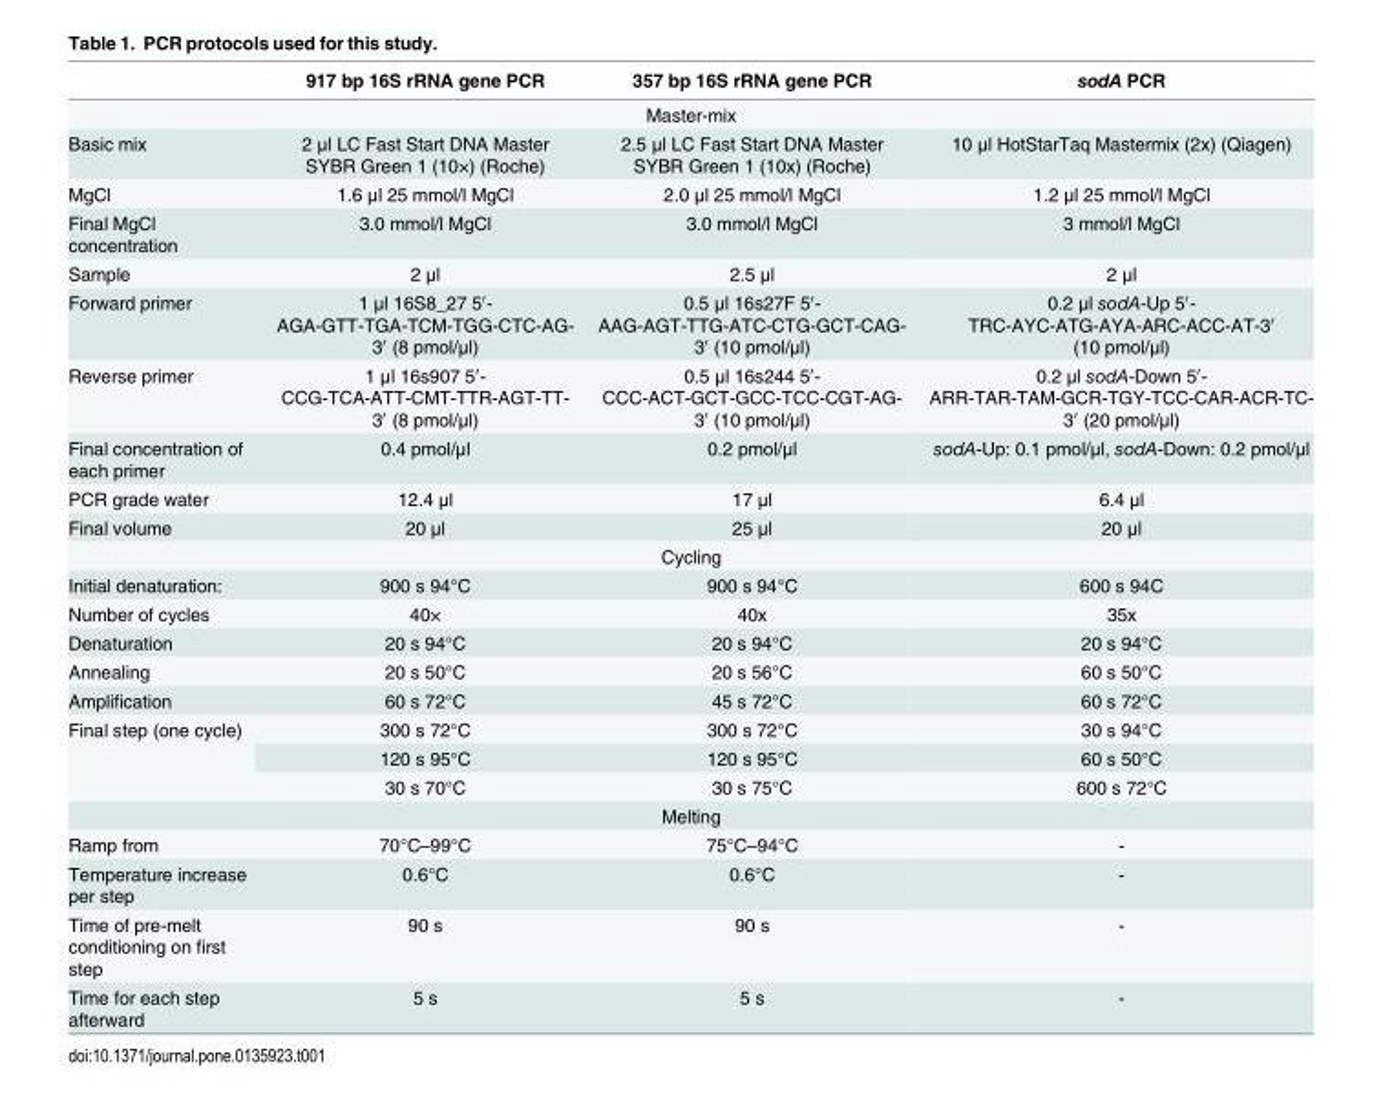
<table><thead><tr><td></td><td>917 bp 16S rRNA gene PCR</td><td>357 bp 16S rRNA gene PCR</td><td>sodA PCR</td></tr></thead><tbody><tr><td colspan="4">Master-mix</td></tr><tr><td>Basic mix</td><td>2 μl LC Fast Start DNA Master SYBR Green 1 (10×) (Roche)</td><td>2.5 μl LC Fast Start DNA Master SYBR Green 1 (10x) (Roche)</td><td>10 μl HotStarTaq Mastermix (2x) (Qiagen)</td></tr><tr><td>MgCl</td><td>1.6 μl 25 mmol/l MgCl</td><td>2.0 μl 25 mmol/l MgCl</td><td>1.2 μl 25 mmol/l MgCl</td></tr><tr><td>Final MgCl concentration</td><td>3.0 mmol/l MgCl</td><td>3.0 mmol/l MgCl</td><td>3 mmol/l MgCl</td></tr><tr><td>Sample</td><td>2 μl</td><td>2.5 μl</td><td>2 μl</td></tr><tr><td>Forward primer</td><td>1 μl 16S8_27 5′- AGA-GTT-TGA-TCM-TGG-CTC-AG- 3′ (8 pmol/μl)</td><td>0.5 μl 16s27F 5′- AAG-AGT-TTG-ATC-CTG-GCT-CAG- 3′ (10 pmol/μl)</td><td>0.2 μl sodA-Up 5′- TRC-AYC-ATG-AYA-ARC-ACC-AT-3′ (10 pmol/μl)</td></tr><tr><td>Reverse primer</td><td>1 μl 16s907 5′- CCG-TCA-ATT-CMT-TTR-AGT-TT- 3′ (8 pmol/μl)</td><td>0.5 μl 16s244 5′- CCC-ACT-GCT-GCC-TCC-CGT-AG- 3′ (10 pmol/μl)</td><td>0.2 μl sodA-Down 5′- ARR-TAR-TAM-GCR-TGY-TCC-CAR-ACR-TC- 3′ (20 pmol/μl)</td></tr><tr><td>Final concentration of each primer</td><td>0.4 pmol/μl</td><td>0.2 pmol/μl</td><td>sodA-Up: 0.1 pmol/μl, sodA-Down: 0.2 pmol/μl</td></tr><tr><td>PCR grade water</td><td>12.4 μl</td><td>17 μl</td><td>6.4 μl</td></tr><tr><td>Final volume</td><td>20 μl</td><td>25 μl</td><td>20 μl</td></tr><tr><td colspan="4">Cycling</td></tr><tr><td>Initial denaturation:</td><td>900 s 94°C</td><td>900 s 94°C</td><td>600 s 94C</td></tr><tr><td>Number of cycles</td><td>40×</td><td>40x</td><td>35x</td></tr><tr><td>Denaturation</td><td>20 s 94°C</td><td>20 s 94°C</td><td>20 s 94°C</td></tr><tr><td>Annealing</td><td>20 s 50°C</td><td>20 s 56°C</td><td>60 s 50°C</td></tr><tr><td>Amplification</td><td>60 s 72°C</td><td>45 s 72°C</td><td>60 s 72°C</td></tr><tr><td rowspan="3">Final step (one cycle)</td><td>300 s 72°C</td><td>300 s 72°C</td><td>30 s 94°C</td></tr><tr><td>120 s 95°C</td><td>120 s 95°C</td><td>60 s 50°C</td></tr><tr><td>30 s 70°C</td><td>30 s 75°C</td><td>600 s 72°C</td></tr><tr><td colspan="4">Melting</td></tr><tr><td>Ramp from</td><td>70°C–99°C</td><td>75°C–94°C</td><td>-</td></tr><tr><td>Temperature increase per step</td><td>0.6°C</td><td>0.6°C</td><td>-</td></tr><tr><td>Time of pre-melt conditioning on first step</td><td>90 s</td><td>90 s</td><td>-</td></tr><tr><td>Time for each step afterward</td><td>5 s</td><td>5 s</td><td>-</td></tr></tbody></table>